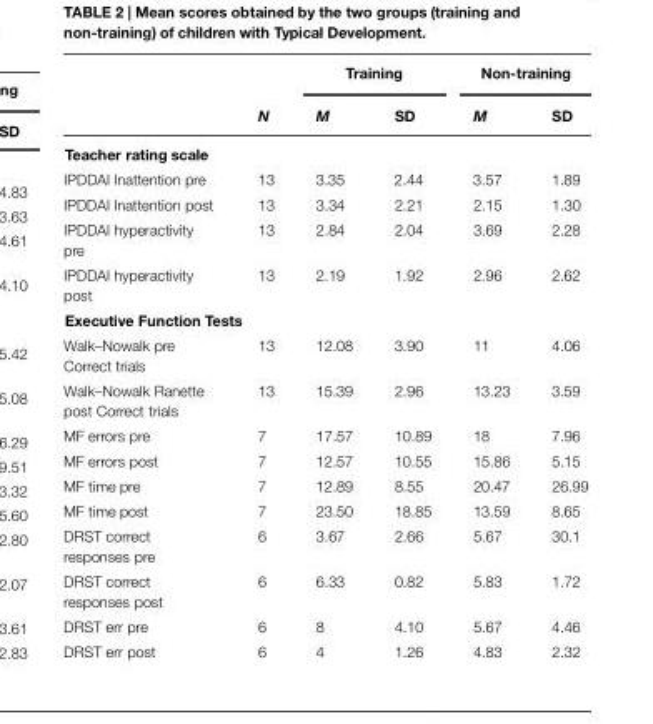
<table><thead><tr><td rowspan="2"></td><td rowspan="2">N</td><td colspan="2">Training</td><td colspan="2">Non-training</td></tr><tr><td>M</td><td>SD</td><td>M</td><td>SD</td></tr></thead><tbody><tr><td colspan="6">Teacher rating scale</td></tr><tr><td>IPDDAI Inattention pre</td><td>13</td><td>3.35</td><td>2.44</td><td>3.57</td><td>1.89</td></tr><tr><td>IPDDAI Inattention post</td><td>13</td><td>3.34</td><td>2.21</td><td>2.15</td><td>1.30</td></tr><tr><td>IPDDAI hyperactivity pre</td><td>13</td><td>2.84</td><td>2.04</td><td>3.69</td><td>2.28</td></tr><tr><td>IPDDAI hyperactivity post</td><td>13</td><td>2.19</td><td>1.92</td><td>2.96</td><td>2.62</td></tr><tr><td colspan="6">Executive Function Tests</td></tr><tr><td>Walk–Nowalk pre Correct trials</td><td>13</td><td>12.08</td><td>3.90</td><td>11</td><td>4.06</td></tr><tr><td>Walk–Nowalk Ranette post Correct trials</td><td>13</td><td>15.39</td><td>2.96</td><td>13.23</td><td>3.59</td></tr><tr><td>MF errors pre</td><td>7</td><td>17.57</td><td>10.89</td><td>18</td><td>7.96</td></tr><tr><td>MF errors post</td><td>7</td><td>12.57</td><td>10.55</td><td>15.86</td><td>5.15</td></tr><tr><td>MF time pre</td><td>7</td><td>12.89</td><td>8.55</td><td>20.47</td><td>26.99</td></tr><tr><td>MF time post</td><td>7</td><td>23.50</td><td>18.85</td><td>13.59</td><td>8.65</td></tr><tr><td>DRST correct responses pre</td><td>6</td><td>3.67</td><td>2.66</td><td>5.67</td><td>30.1</td></tr><tr><td>DRST correct responses post</td><td>6</td><td>6.33</td><td>0.82</td><td>5.83</td><td>1.72</td></tr><tr><td>DRST err pre</td><td>6</td><td>8</td><td>4.10</td><td>5.67</td><td>4.46</td></tr><tr><td>DRST err post</td><td>6</td><td>4</td><td>1.26</td><td>4.83</td><td>2.32</td></tr></tbody></table>